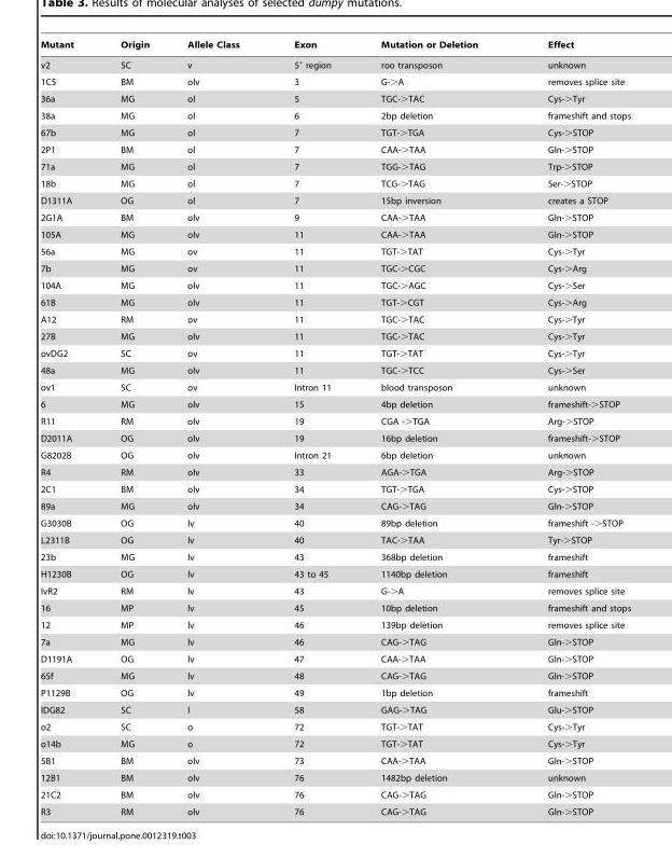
<table><thead><tr><td>Mutant</td><td>Origin</td><td>Allele Class</td><td>Exon</td><td>Mutation or Deletion</td><td>Effect</td></tr></thead><tbody><tr><td>v2</td><td>SC</td><td>v</td><td>5′ region</td><td>roo transposon</td><td>unknown</td></tr><tr><td>1C5</td><td>BM</td><td>olv</td><td>3</td><td>G-&gt;A</td><td>removes splice site</td></tr><tr><td>36a</td><td>MG</td><td>ol</td><td>5</td><td>TGC-&gt;TAC</td><td>Cys-&gt;Tyr</td></tr><tr><td>38a</td><td>MG</td><td>ol</td><td>6</td><td>2bp deletion</td><td>frameshift and stops</td></tr><tr><td>67b</td><td>MG</td><td>ol</td><td>7</td><td>TGT-&gt;TGA</td><td>Cys-&gt;STOP</td></tr><tr><td>2P1</td><td>BM</td><td>ol</td><td>7</td><td>CAA-&gt;TAA</td><td>Gln-&gt;STOP</td></tr><tr><td>71a</td><td>MG</td><td>ol</td><td>7</td><td>TGG-&gt;TAG</td><td>Trp-&gt;STOP</td></tr><tr><td>18b</td><td>MG</td><td>ol</td><td>7</td><td>TCG-&gt;TAG</td><td>Ser-&gt;STOP</td></tr><tr><td>D1311A</td><td>OG</td><td>ol</td><td>7</td><td>15bp inversion</td><td>creates a STOP</td></tr><tr><td>2G1A</td><td>BM</td><td>olv</td><td>9</td><td>CAA-&gt;TAA</td><td>Gln-&gt;STOP</td></tr><tr><td>105A</td><td>MG</td><td>olv</td><td>11</td><td>CAA-&gt;TAA</td><td>Gln-&gt;STOP</td></tr><tr><td>56a</td><td>MG</td><td>ov</td><td>11</td><td>TGT-&gt;TAT</td><td>Cys-&gt;Tyr</td></tr><tr><td>7b</td><td>MG</td><td>ov</td><td>11</td><td>TGC-&gt;CGC</td><td>Cys-&gt;Arg</td></tr><tr><td>104A</td><td>MG</td><td>olv</td><td>11</td><td>TGC-&gt;AGC</td><td>Cys-&gt;Ser</td></tr><tr><td>61B</td><td>MG</td><td>olv</td><td>11</td><td>TGT-&gt;CGT</td><td>Cys-&gt;Arg</td></tr><tr><td>A12</td><td>RM</td><td>ov</td><td>11</td><td>TGC-&gt;TAC</td><td>Cys-&gt;Tyr</td></tr><tr><td>27B</td><td>MG</td><td>olv</td><td>11</td><td>TGC-&gt;TAC</td><td>Cys-&gt;Tyr</td></tr><tr><td>ovDG2</td><td>SC</td><td>ov</td><td>11</td><td>TGT-&gt;TAT</td><td>Cys-&gt;Tyr</td></tr><tr><td>48a</td><td>MG</td><td>olv</td><td>11</td><td>TGC-&gt;TCC</td><td>Cys-&gt;Ser</td></tr><tr><td>ov1</td><td>SC</td><td>ov</td><td>Intron 11</td><td>blood transposon</td><td>unknown</td></tr><tr><td>6</td><td>MG</td><td>olv</td><td>15</td><td>4bp deletion</td><td>frameshift-&gt;STOP</td></tr><tr><td>R11</td><td>RM</td><td>olv</td><td>19</td><td>CGA -&gt;TGA</td><td>Arg-&gt;STOP</td></tr><tr><td>D2011A</td><td>OG</td><td>olv</td><td>19</td><td>16bp deletion</td><td>frameshift-&gt;STOP</td></tr><tr><td>G8202B</td><td>OG</td><td>olv</td><td>Intron 21</td><td>6bp deletion</td><td>unknown</td></tr><tr><td>R4</td><td>RM</td><td>olv</td><td>33</td><td>AGA-&gt;TGA</td><td>Arg-&gt;STOP</td></tr><tr><td>2C1</td><td>BM</td><td>olv</td><td>34</td><td>TGT-&gt;TGA</td><td>Cys-&gt;STOP</td></tr><tr><td>89a</td><td>MG</td><td>olv</td><td>34</td><td>CAG-&gt;TAG</td><td>Gln-&gt;STOP</td></tr><tr><td>G3030B</td><td>OG</td><td>lv</td><td>40</td><td>89bp deletion</td><td>frameshift -&gt;STOP</td></tr><tr><td>L2311B</td><td>OG</td><td>lv</td><td>40</td><td>TAC-&gt;TAA</td><td>Tyr-&gt;STOP</td></tr><tr><td>23b</td><td>MG</td><td>lv</td><td>43</td><td>368bp deletion</td><td>frameshift</td></tr><tr><td>H1230B</td><td>OG</td><td>lv</td><td>43 to 45</td><td>1140bp deletion</td><td>frameshift</td></tr><tr><td>lvR2</td><td>RM</td><td>lv</td><td>43</td><td>G-&gt;A</td><td>removes splice site</td></tr><tr><td>16</td><td>MP</td><td>lv</td><td>45</td><td>10bp deletion</td><td>frameshift and stops</td></tr><tr><td>12</td><td>MP</td><td>lv</td><td>46</td><td>139bp deletion</td><td>removes splice site</td></tr><tr><td>7a</td><td>MG</td><td>lv</td><td>46</td><td>CAG-&gt;TAG</td><td>Gln-&gt;STOP</td></tr><tr><td>D1191A</td><td>OG</td><td>lv</td><td>47</td><td>CAA-&gt;TAA</td><td>Gln-&gt;STOP</td></tr><tr><td>65f</td><td>MG</td><td>lv</td><td>48</td><td>CAG-&gt;TAG</td><td>Gln-&gt;STOP</td></tr><tr><td>P1129B</td><td>OG</td><td>lv</td><td>49</td><td>1bp deletion</td><td>frameshift</td></tr><tr><td>lDG82</td><td>SC</td><td>l</td><td>58</td><td>GAG-&gt;TAG</td><td>Glu-&gt;STOP</td></tr><tr><td>o2</td><td>SC</td><td>o</td><td>72</td><td>TGT-&gt;TAT</td><td>Cys-&gt;Tyr</td></tr><tr><td>o14b</td><td>MG</td><td>o</td><td>72</td><td>TGT-&gt;TAT</td><td>Cys-&gt;Tyr</td></tr><tr><td>5B1</td><td>BM</td><td>olv</td><td>73</td><td>CAA-&gt;TAA</td><td>Gln-&gt;STOP</td></tr><tr><td>12B1</td><td>BM</td><td>olv</td><td>76</td><td>1482bp deletion</td><td>unknown</td></tr><tr><td>21C2</td><td>BM</td><td>olv</td><td>76</td><td>CAG-&gt;TAG</td><td>Gln-&gt;STOP</td></tr><tr><td>R3</td><td>RM</td><td>olv</td><td>76</td><td>CAG-&gt;TAG</td><td>Gln-&gt;STOP</td></tr></tbody></table>